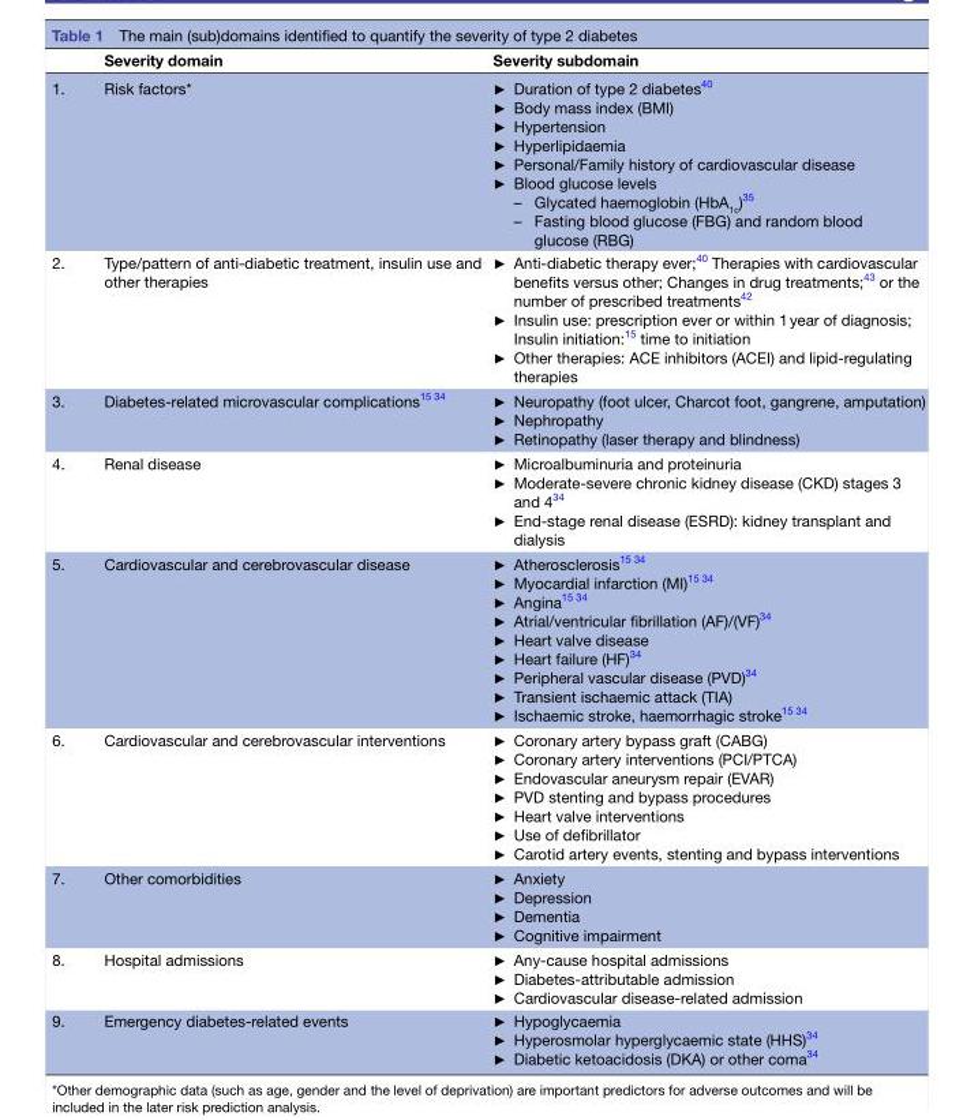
<table><thead><tr><td></td><td>Severity domain</td><td>Severity subdomain</td></tr></thead><tbody><tr><td>1.</td><td>Risk factors*</td><td>► Duration of type 2 diabetes40 ► Body mass index (BMI) ► Hypertension ► Hyperlipidaemia ► Personal/Family history of cardiovascular disease ► Blood glucose levels – Glycated haemoglobin (HbA1c)35 – Fasting blood glucose (FBG) and random blood glucose (RBG)</td></tr><tr><td>2.</td><td>Type/pattern of anti-diabetic treatment, insulin use and other therapies</td><td>► Anti-diabetic therapy ever;40 Therapies with cardiovascular benefits versus other; Changes in drug treatments;43 or the number of prescribed treatments42 ► Insulin use: prescription ever or within 1 year of diagnosis; Insulin initiation:15 time to initiation ► Other therapies: ACE inhibitors (ACEI) and lipid-regulating therapies</td></tr><tr><td>3.</td><td>Diabetes-related microvascular complications<sup>15 34</sup></td><td>► Neuropathy (foot ulcer, Charcot foot, gangrene, amputation) ► Nephropathy ► Retinopathy (laser therapy and blindness)</td></tr><tr><td>4.</td><td>Renal disease</td><td>► Microalbuminuria and proteinuria ► Moderate-severe chronic kidney disease (CKD) stages 3 and 434 ► End-stage renal disease (ESRD): kidney transplant and dialysis</td></tr><tr><td>5.</td><td>Cardiovascular and cerebrovascular disease</td><td>► Atherosclerosis15 34 ► Myocardial infarction (MI)15 34 ► Angina15 34 ► Atrial/ventricular fibrillation (AF)/(VF)34 ► Heart valve disease ► Heart failure (HF)34 ► Peripheral vascular disease (PVD)34 ► Transient ischaemic attack (TIA) ► Ischaemic stroke, haemorrhagic stroke15 34</td></tr><tr><td>6.</td><td>Cardiovascular and cerebrovascular interventions</td><td>► Coronary artery bypass graft (CABG) ► Coronary artery interventions (PCI/PTCA) ► Endovascular aneurysm repair (EVAR) ► PVD stenting and bypass procedures ► Heart valve interventions ► Use of defibrillator ► Carotid artery events, stenting and bypass interventions</td></tr><tr><td>7.</td><td>Other comorbidities</td><td>► Anxiety ► Depression ► Dementia ► Cognitive impairment</td></tr><tr><td>8.</td><td>Hospital admissions</td><td>► Any-cause hospital admissions ► Diabetes-attributable admission ► Cardiovascular disease-related admission</td></tr><tr><td>9.</td><td>Emergency diabetes-related events</td><td>► Hypoglycaemia ► Hyperosmolar hyperglycaemic state (HHS)34 ► Diabetic ketoacidosis (DKA) or other coma34</td></tr></tbody></table>